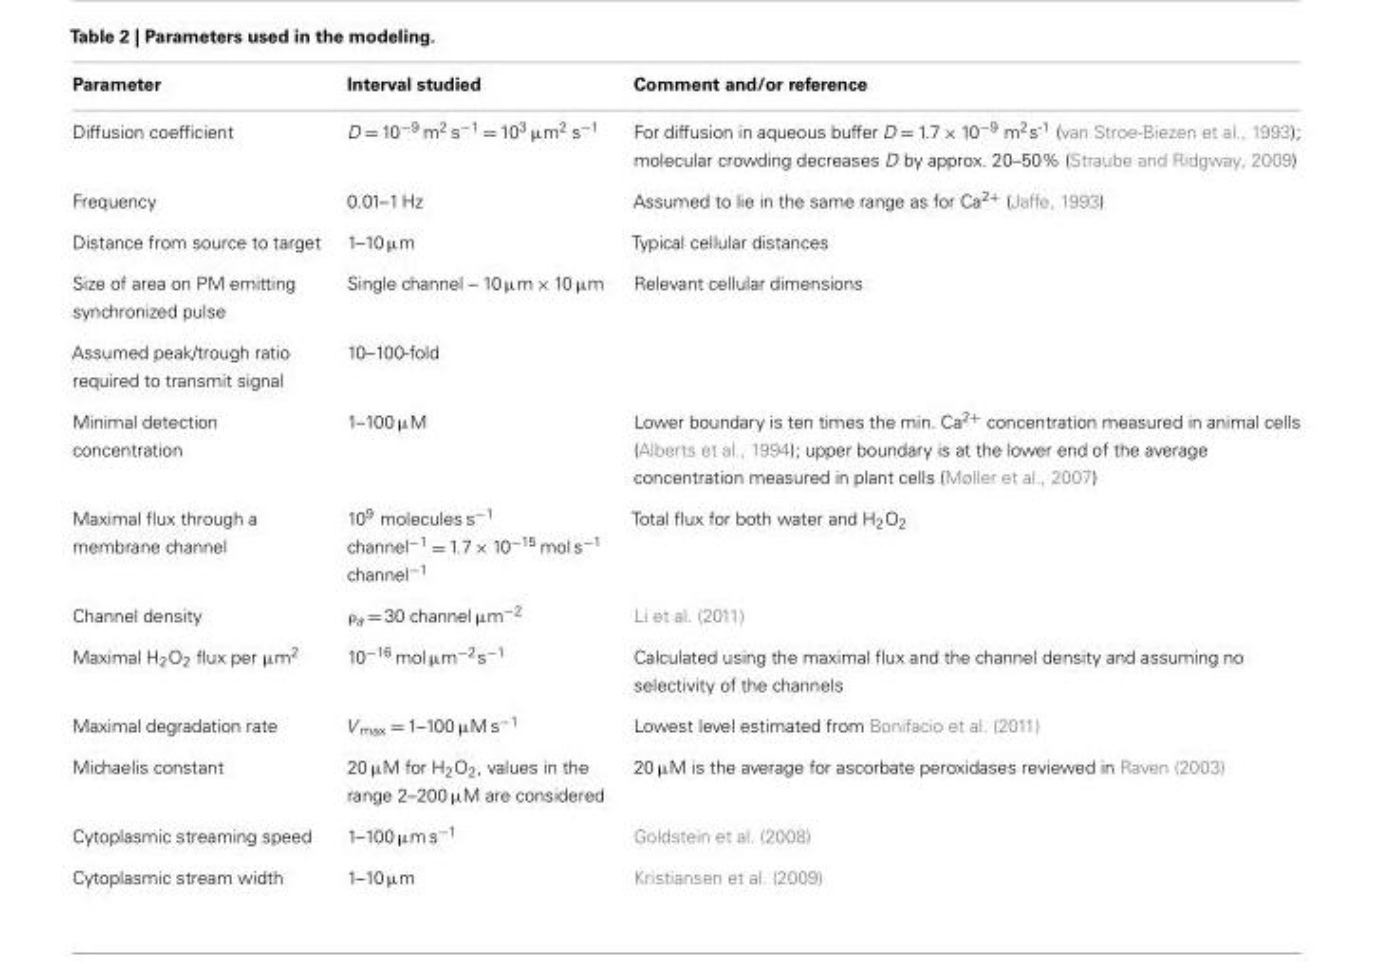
<table><thead><tr><td>Parameter</td><td>Interval studied</td><td>Comment and/or reference</td></tr></thead><tbody><tr><td>Diffusion coefficient</td><td>D = 10<sup>−9</sup> m<sup>2</sup> s<sup>−1</sup> = 10<sup>3</sup> µm<sup>2</sup> s<sup>−1</sup></td><td>For diffusion in aqueous buffer D = 1.7 × 10<sup>−9</sup> m<sup>2</sup>s<sup>-1</sup> (van Stroe-Biezen et al., 1993); molecular crowding decreases D by approx. 20–50% (Straube and Ridgway, 2009)</td></tr><tr><td>Frequency</td><td>0.01–1 Hz</td><td>Assumed to lie in the same range as for Ca<sup>2+</sup> (Jaffe, 1993)</td></tr><tr><td>Distance from source to target</td><td>1–10 µm</td><td>Typical cellular distances</td></tr><tr><td>Size of area on PM emitting synchronized pulse</td><td>Single channel – 10 µm × 10 µm</td><td>Relevant cellular dimensions</td></tr><tr><td>Assumed peak/trough ratio required to transmit signal</td><td>10–100-fold</td><td></td></tr><tr><td>Minimal detection concentration</td><td>1–100 µM</td><td>Lower boundary is ten times the min. Ca<sup>2+</sup> concentration measured in animal cells (Alberts et al., 1994); upper boundary is at the lower end of the average concentration measured in plant cells (Møller et al., 2007)</td></tr><tr><td>Maximal flux through a membrane channel</td><td>10<sup>9</sup> molecules s<sup>−1</sup> channel<sup>−1</sup> = 1.7 × 10<sup>−15</sup> mol s<sup>−1</sup> channel<sup>−1</sup></td><td>Total flux for both water and H<sub>2</sub>O<sub>2</sub></td></tr><tr><td>Channel density</td><td>ρ<sub>a</sub> = 30 channel µm<sup>−2</sup></td><td>Li et al. (2011)</td></tr><tr><td>Maximal H<sub>2</sub>O<sub>2</sub> flux per µm<sup>2</sup></td><td>10<sup>−16</sup> mol µm<sup>−2</sup>s<sup>−1</sup></td><td>Calculated using the maximal flux and the channel density and assuming no selectivity of the channels</td></tr><tr><td>Maximal degradation rate</td><td>V <sub>max</sub> = 1–100 µM s<sup>−1</sup></td><td>Lowest level estimated from Bonifacio et al. (2011)</td></tr><tr><td>Michaelis constant</td><td>20 µM for H<sub>2</sub>O<sub>2</sub>, values in the range 2–200 µM are considered</td><td>20 µM is the average for ascorbate peroxidases reviewed in Raven (2003)</td></tr><tr><td>Cytoplasmic streaming speed</td><td>1–100 µm s<sup>−1</sup></td><td>Goldstein et al. (2008)</td></tr><tr><td>Cytoplasmic stream width</td><td>1–10 µm</td><td>Kristiansen et al. (2009)</td></tr></tbody></table>